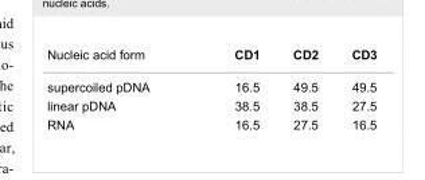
<table><tbody><tr><td>Nucleic acid form</td><td>CD1</td><td>CD2</td><td>CD3</td></tr><tr><td>supercoiled pDNA</td><td>16.5</td><td>49.5</td><td>49.5</td></tr><tr><td>linear pDNA</td><td>38.5</td><td>38.5</td><td>27.5</td></tr><tr><td>RNA</td><td>16.5</td><td>27.5</td><td>16.5</td></tr></tbody></table>